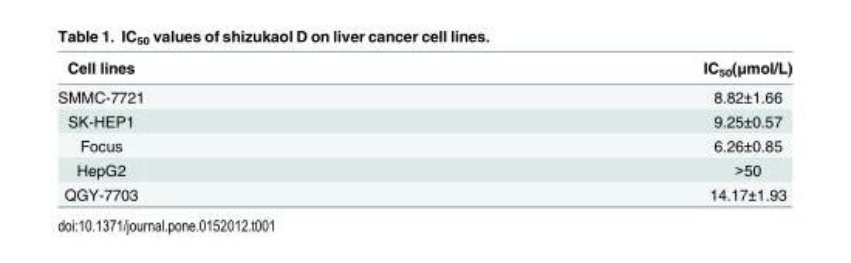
<table><thead><tr><td>Cell lines</td><td>IC<sub>50</sub>(μmol/L)</td></tr></thead><tbody><tr><td>SMMC-7721</td><td>8.82±1.66</td></tr><tr><td>SK-HEP1</td><td>9.25±0.57</td></tr><tr><td>Focus</td><td>6.26±0.85</td></tr><tr><td>HepG2</td><td>&gt;50</td></tr><tr><td>QGY-7703</td><td>14.17±1.93</td></tr></tbody></table>